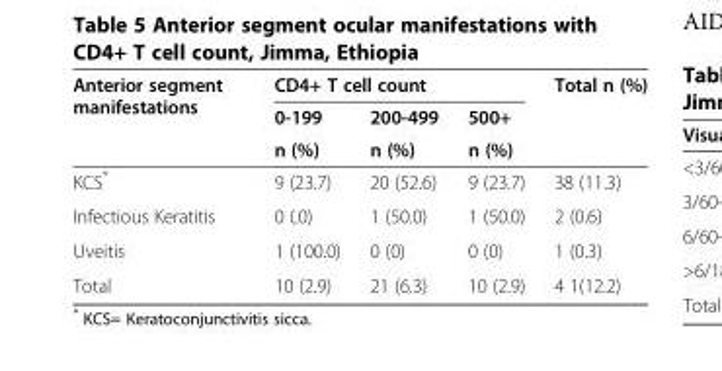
<table><thead><tr><td rowspan="3">Anterior segment manifestations</td><td colspan="3">CD4+ T cell count</td><td rowspan="3">Total n (%)</td></tr><tr><td rowspan="2">0-199 n (%)</td><td rowspan="2">200-499 n (%)</td><td rowspan="2">500+ n (%)</td></tr><tr></tr></thead><tbody><tr><td>KCS*</td><td>9 (23.7)</td><td>20 (52.6)</td><td>9 (23.7)</td><td>38 (11.3)</td></tr><tr><td>Infectious Keratitis</td><td>0 (.0)</td><td>1 (50.0)</td><td>1 (50.0)</td><td>2 (0.6)</td></tr><tr><td>Uveitis</td><td>1 (100.0)</td><td>0 (0)</td><td>0 (0)</td><td>1 (0.3)</td></tr><tr><td>Total</td><td>10 (2.9)</td><td>21 (6.3)</td><td>10 (2.9)</td><td>4 1(12.2)</td></tr></tbody></table>